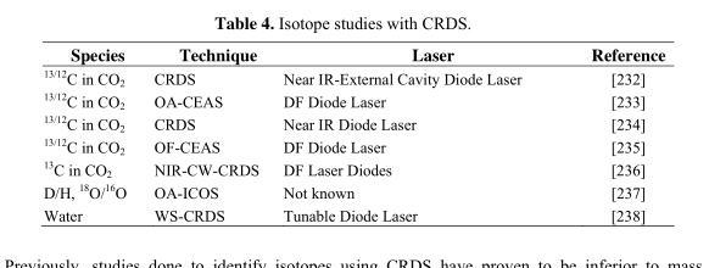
<table><thead><tr><td>Species</td><td>Technique</td><td>Laser</td><td>Reference</td></tr></thead><tbody><tr><td><sup>13/12</sup>C in CO<sub>2</sub></td><td>CRDS</td><td>Near IR-External Cavity Diode Laser</td><td>[232]</td></tr><tr><td><sup>13/12</sup>C in CO<sub>2</sub></td><td>OA-CEAS</td><td>DF Diode Laser</td><td>[233]</td></tr><tr><td><sup>13/12</sup>C in CO<sub>2</sub></td><td>CRDS</td><td>Near IR Diode Laser</td><td>[234]</td></tr><tr><td><sup>13/12</sup>C in CO<sub>2</sub></td><td>OF-CEAS</td><td>DF Diode Laser</td><td>[235]</td></tr><tr><td><sup>13</sup>C in CO<sub>2</sub></td><td>NIR-CW-CRDS</td><td>DF Laser Diodes</td><td>[236]</td></tr><tr><td>D/H, <sup>18</sup>O/<sup>16</sup>O</td><td>OA-ICOS</td><td>Not known</td><td>[237]</td></tr><tr><td>Water</td><td>WS-CRDS</td><td>Tunable Diode Laser</td><td>[238]</td></tr></tbody></table>